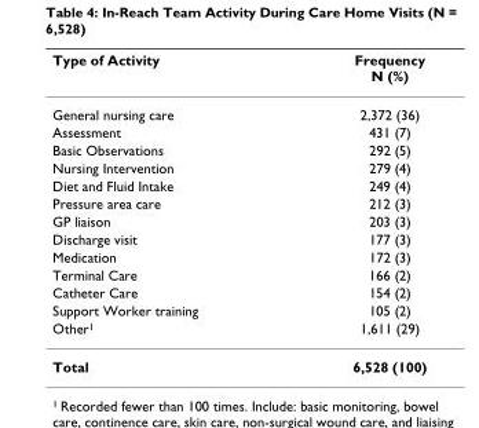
<table><thead><tr><td>Type of Activity</td><td>Frequency N (%)</td></tr></thead><tbody><tr><td>General nursing care</td><td>2,372 (36)</td></tr><tr><td>Assessment</td><td>431 (7)</td></tr><tr><td>Basic Observations</td><td>292 (5)</td></tr><tr><td>Nursing Intervention</td><td>279 (4)</td></tr><tr><td>Diet and Fluid Intake</td><td>249 (4)</td></tr><tr><td>Pressure area care</td><td>212 (3)</td></tr><tr><td>GP liaison</td><td>203 (3)</td></tr><tr><td>Discharge visit</td><td>177 (3)</td></tr><tr><td>Medication</td><td>172 (3)</td></tr><tr><td>Terminal Care</td><td>166 (2)</td></tr><tr><td>Catheter Care</td><td>154 (2)</td></tr><tr><td>Support Worker training</td><td>105 (2)</td></tr><tr><td>Other<sup>1</sup></td><td>1,611 (29)</td></tr><tr><td>Total</td><td>6,528 (100)</td></tr></tbody></table>